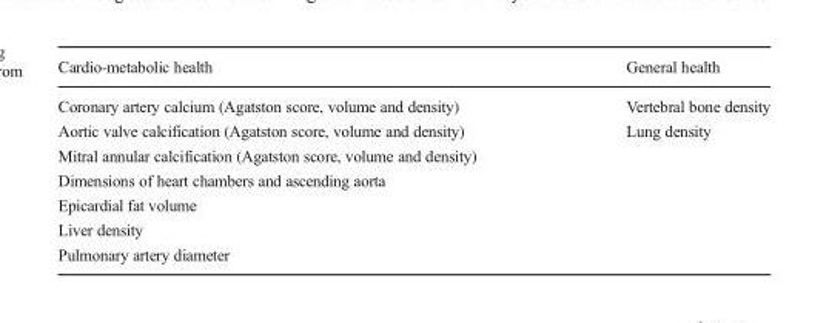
<table><thead><tr><td>Cardio-metabolic health</td><td>General health</td></tr></thead><tbody><tr><td>Coronary artery calcium (Agatston score, volume and density)</td><td>Vertebral bone density</td></tr><tr><td>Aortic valve calcification (Agatston score, volume and density)</td><td>Lung density</td></tr><tr><td colspan="2">Mitral annular calcification (Agatston score, volume and density)</td></tr><tr><td colspan="2">Dimensions of heart chambers and ascending aorta</td></tr><tr><td colspan="2">Epicardial fat volume</td></tr><tr><td colspan="2">Liver density</td></tr><tr><td>Pulmonary artery diameter</td><td></td></tr></tbody></table>